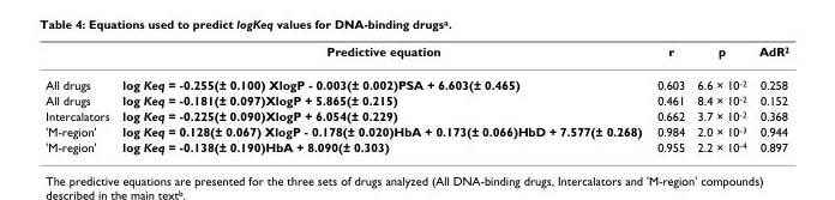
<table><thead><tr><td></td><td>Predictive equation</td><td>r</td><td>p</td><td>AdR<sup>2</sup></td></tr></thead><tbody><tr><td>All drugs</td><td>log Keq = -0.255(± 0.100) XlogP - 0.003(± 0.002)PSA + 6.603(± 0.465)</td><td>0.603</td><td>6.6 × 10<sup>-2</sup></td><td>0.258</td></tr><tr><td>All drugs</td><td>log Keq = -0.181(± 0.097)XlogP + 5.865(± 0.215)</td><td>0.461</td><td>8.4 × 10<sup>-2</sup></td><td>0.152</td></tr><tr><td>Intercalators</td><td>log Keq = -0.225(± 0.090)XlogP + 6.054(± 0.229)</td><td>0.662</td><td>3.7 × 10<sup>-2</sup></td><td>0.368</td></tr><tr><td>&#x27;M-region&#x27;</td><td>log Keq = 0.128(± 0.067) XlogP - 0.178(± 0.020)HbA + 0.173(± 0.066)HbD + 7.577(± 0.268)</td><td>0.984</td><td>2.0 × 10<sup>-3</sup></td><td>0.944</td></tr><tr><td>&#x27;M-region&#x27;</td><td>log Keq = -0.138(± 0.190)HbA + 8.090(± 0.303)</td><td>0.955</td><td>2.2 × 10<sup>-4</sup></td><td>0.897</td></tr></tbody></table>